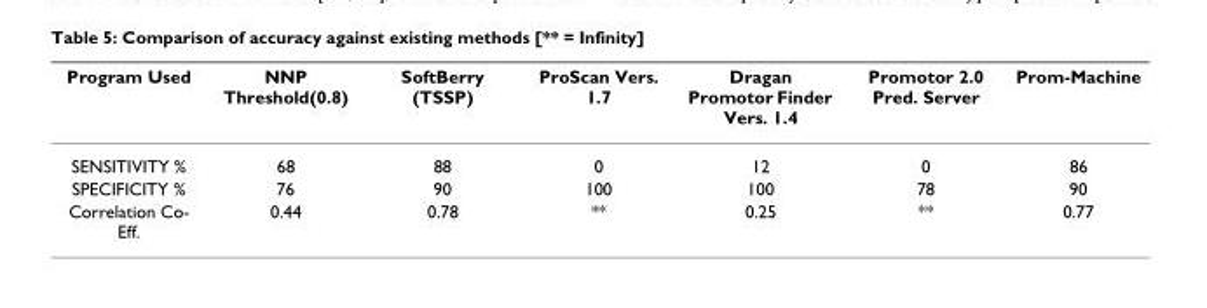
<table><thead><tr><td>Program Used</td><td>NNP Threshold(0.8)</td><td>SoftBerry (TSSP)</td><td>ProScan Vers. 1.7</td><td>Dragan Promotor Finder Vers. 1.4</td><td>Promotor 2.0 Pred. Server</td><td>Prom-Machine</td></tr></thead><tbody><tr><td>SENSITIVITY %</td><td>68</td><td>88</td><td>0</td><td>12</td><td>0</td><td>86</td></tr><tr><td>SPECIFICITY %</td><td>76</td><td>90</td><td>100</td><td>100</td><td>78</td><td>90</td></tr><tr><td>Correlation Co- Eff.</td><td>0.44</td><td>0.78</td><td>**</td><td>0.25</td><td>**</td><td>0.77</td></tr></tbody></table>